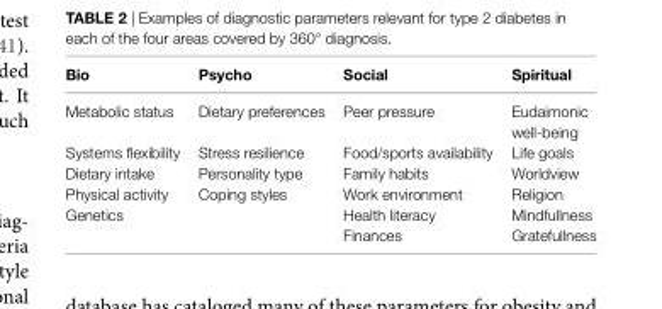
<table><thead><tr><td>Bio</td><td>Psycho</td><td>Social</td><td>Spiritual</td></tr></thead><tbody><tr><td>Metabolic status</td><td>Dietary preferences</td><td>Peer pressure</td><td>Eudaimonic well-being</td></tr><tr><td>Systems flexibility</td><td>Stress resilience</td><td>Food/sports availability</td><td>Life goals</td></tr><tr><td>Dietary intake</td><td>Personality type</td><td>Family habits</td><td>Worldview</td></tr><tr><td>Physical activity</td><td>Coping styles</td><td>Work environment</td><td>Religion</td></tr><tr><td rowspan="2">Genetics</td><td></td><td>Health literacy</td><td>Mindfullness</td></tr><tr><td></td><td>Finances</td><td>Gratefullness</td></tr></tbody></table>